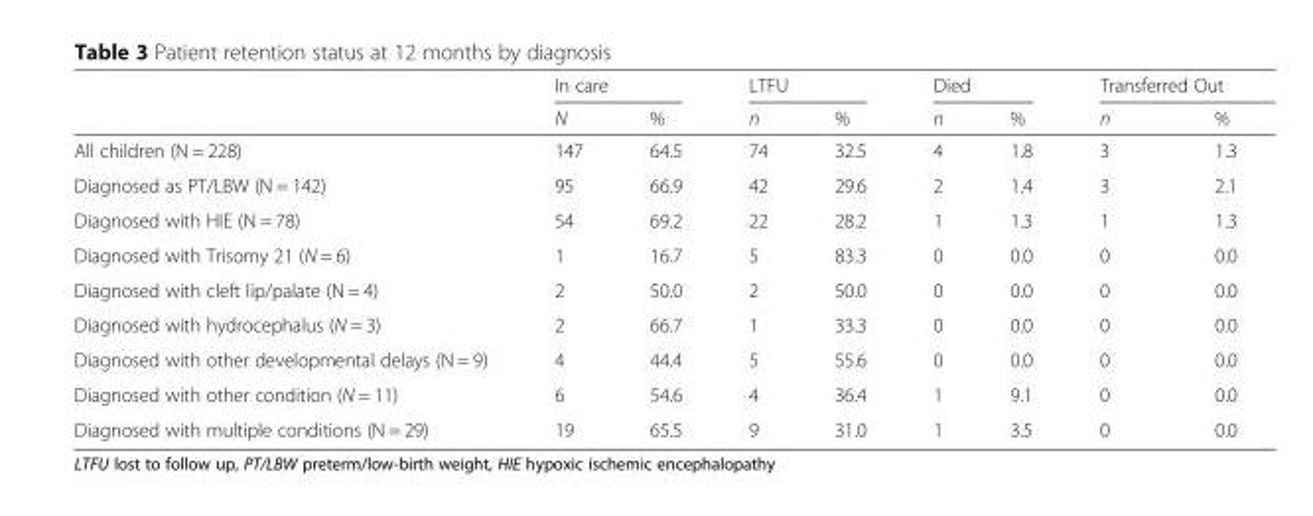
<table><thead><tr><td rowspan="2"></td><td colspan="2">In care</td><td colspan="2">LTFU</td><td colspan="2">Died</td><td colspan="2">Transferred Out</td></tr><tr><td>N</td><td>%</td><td>n</td><td>%</td><td>n</td><td>%</td><td>n</td><td>%</td></tr></thead><tbody><tr><td>All children (N = 228)</td><td>147</td><td>64.5</td><td>74</td><td>32.5</td><td>4</td><td>1.8</td><td>3</td><td>1.3</td></tr><tr><td>Diagnosed as PT/LBW (N = 142)</td><td>95</td><td>66.9</td><td>42</td><td>29.6</td><td>2</td><td>1.4</td><td>3</td><td>2.1</td></tr><tr><td>Diagnosed with HIE (N = 78)</td><td>54</td><td>69.2</td><td>22</td><td>28.2</td><td>1</td><td>1.3</td><td>1</td><td>1.3</td></tr><tr><td>Diagnosed with Trisomy 21 (N = 6)</td><td>1</td><td>16.7</td><td>5</td><td>83.3</td><td>0</td><td>0.0</td><td>0</td><td>0.0</td></tr><tr><td>Diagnosed with cleft lip/palate (N = 4)</td><td>2</td><td>50.0</td><td>2</td><td>50.0</td><td>0</td><td>0.0</td><td>0</td><td>0.0</td></tr><tr><td>Diagnosed with hydrocephalus (N = 3)</td><td>2</td><td>66.7</td><td>1</td><td>33.3</td><td>0</td><td>0.0</td><td>0</td><td>0.0</td></tr><tr><td>Diagnosed with other developmental delays (N = 9)</td><td>4</td><td>44.4</td><td>5</td><td>55.6</td><td>0</td><td>0.0</td><td>0</td><td>0.0</td></tr><tr><td>Diagnosed with other condition (N = 11)</td><td>6</td><td>54.6</td><td>4</td><td>36.4</td><td>1</td><td>9.1</td><td>0</td><td>0.0</td></tr><tr><td>Diagnosed with multiple conditions (N = 29)</td><td>19</td><td>65.5</td><td>9</td><td>31.0</td><td>1</td><td>3.5</td><td>0</td><td>0.0</td></tr></tbody></table>